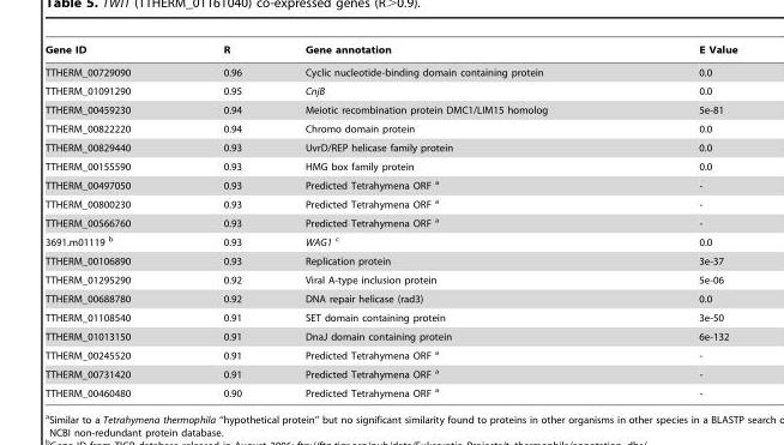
<table><thead><tr><td>Gene ID</td><td>R</td><td>Gene annotation</td><td>E Value</td></tr></thead><tbody><tr><td>TTHERM_00729090</td><td>0.96</td><td>Cyclic nucleotide-binding domain containing protein</td><td>0.0</td></tr><tr><td>TTHERM_01091290</td><td>0.95</td><td>CnjB</td><td>0.0</td></tr><tr><td>TTHERM_00459230</td><td>0.94</td><td>Meiotic recombination protein DMC1/LIM15 homolog</td><td>5e-81</td></tr><tr><td>TTHERM_00822220</td><td>0.94</td><td>Chromo domain protein</td><td>0.0</td></tr><tr><td>TTHERM_00829440</td><td>0.93</td><td>UvrD/REP helicase family protein</td><td>0.0</td></tr><tr><td>TTHERM_00155590</td><td>0.93</td><td>HMG box family protein</td><td>0.0</td></tr><tr><td>TTHERM_00497050</td><td>0.93</td><td>Predicted Tetrahymena ORF a</td><td>-</td></tr><tr><td>TTHERM_00800230</td><td>0.93</td><td>Predicted Tetrahymena ORF a</td><td>-</td></tr><tr><td>TTHERM_00566760</td><td>0.93</td><td>Predicted Tetrahymena ORF a</td><td>-</td></tr><tr><td>3691.m01119 b</td><td>0.93</td><td>WAG1 c</td><td>0.0</td></tr><tr><td>TTHERM_00106890</td><td>0.93</td><td>Replication protein</td><td>3e-37</td></tr><tr><td>TTHERM_01295290</td><td>0.92</td><td>Viral A-type inclusion protein</td><td>5e-06</td></tr><tr><td>TTHERM_00688780</td><td>0.92</td><td>DNA repair helicase (rad3)</td><td>0.0</td></tr><tr><td>TTHERM_01108540</td><td>0.91</td><td>SET domain containing protein</td><td>3e-50</td></tr><tr><td>TTHERM_01013150</td><td>0.91</td><td>DnaJ domain containing protein</td><td>6e-132</td></tr><tr><td>TTHERM_00245520</td><td>0.91</td><td>Predicted Tetrahymena ORF a</td><td>-</td></tr><tr><td>TTHERM_00731420</td><td>0.91</td><td>Predicted Tetrahymena ORF a</td><td>-</td></tr><tr><td>TTHERM_00460480</td><td>0.90</td><td>Predicted Tetrahymena ORF a</td><td>-</td></tr></tbody></table>